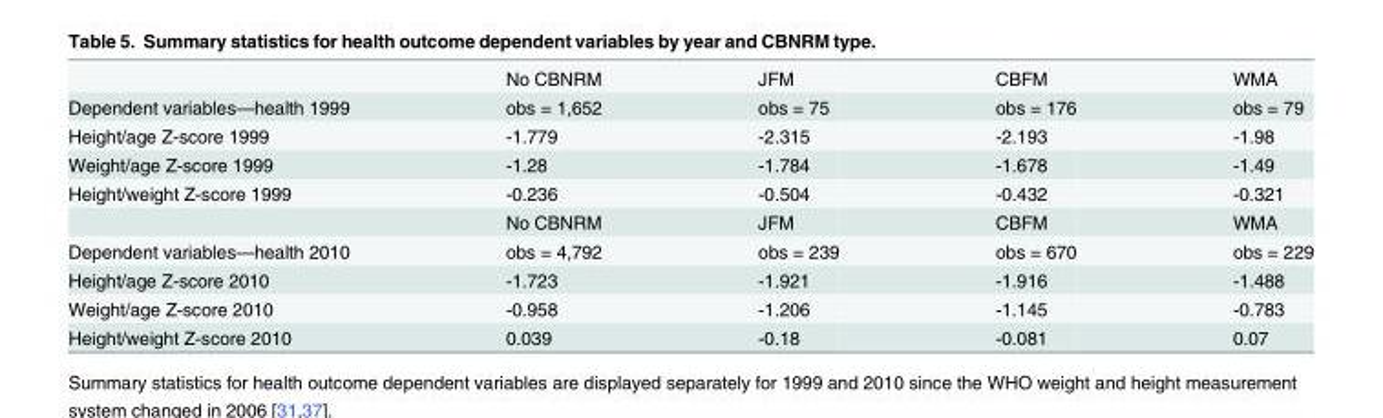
<table><thead><tr><td></td><td>No CBNRM</td><td>JFM</td><td>CBFM</td><td>WMA</td></tr></thead><tbody><tr><td>Dependent variables—health 1999</td><td>obs = 1,652</td><td>obs = 75</td><td>obs = 176</td><td>obs = 79</td></tr><tr><td>Height/age Z-score 1999</td><td>-1.779</td><td>-2.315</td><td>-2.193</td><td>-1.98</td></tr><tr><td>Weight/age Z-score 1999</td><td>-1.28</td><td>-1.784</td><td>-1.678</td><td>-1.49</td></tr><tr><td rowspan="2">Height/weight Z-score 1999</td><td>-0.236</td><td>-0.504</td><td>-0.432</td><td>-0.321</td></tr><tr><td>No CBNRM</td><td>JFM</td><td>CBFM</td><td>WMA</td></tr><tr><td>Dependent variables—health 2010</td><td>obs = 4,792</td><td>obs = 239</td><td>obs = 670</td><td>obs = 229</td></tr><tr><td>Height/age Z-score 2010</td><td>-1.723</td><td>-1.921</td><td>-1.916</td><td>-1.488</td></tr><tr><td>Weight/age Z-score 2010</td><td>-0.958</td><td>-1.206</td><td>-1.145</td><td>-0.783</td></tr><tr><td>Height/weight Z-score 2010</td><td>0.039</td><td>-0.18</td><td>-0.081</td><td>0.07</td></tr></tbody></table>